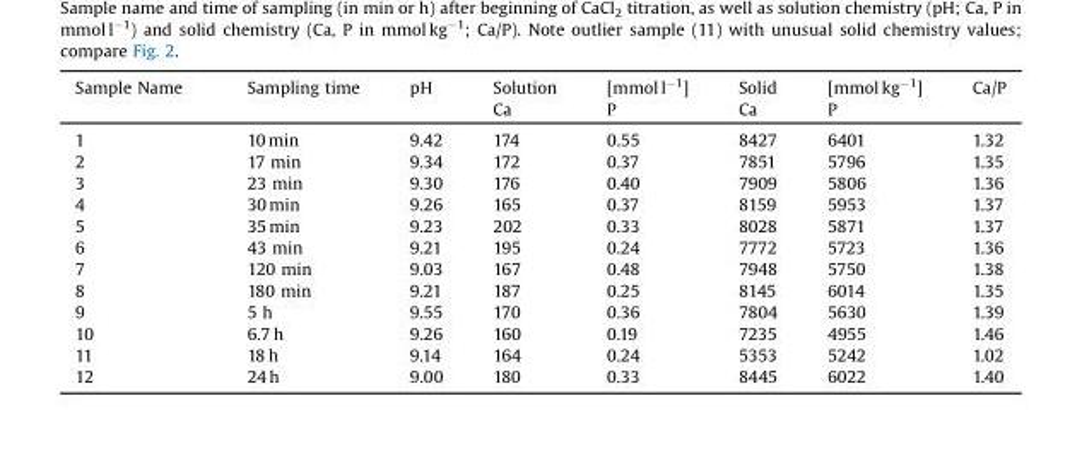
<table><thead><tr><td>Sample Name</td><td>Sampling time</td><td>pH</td><td>Solution Ca</td><td>[mmol l<sup>−1</sup>] P</td><td>Solid Ca</td><td>[mmol kg<sup>−1</sup>] P</td><td>Ca/P</td></tr></thead><tbody><tr><td>1</td><td>10 min</td><td>9.42</td><td>174</td><td>0.55</td><td>8427</td><td>6401</td><td>1.32</td></tr><tr><td>2</td><td>17 min</td><td>9.34</td><td>172</td><td>0.37</td><td>7851</td><td>5796</td><td>1.35</td></tr><tr><td>3</td><td>23 min</td><td>9.30</td><td>176</td><td>0.40</td><td>7909</td><td>5806</td><td>1.36</td></tr><tr><td>4</td><td>30 min</td><td>9.26</td><td>165</td><td>0.37</td><td>8159</td><td>5953</td><td>1.37</td></tr><tr><td>5</td><td>35 min</td><td>9.23</td><td>202</td><td>0.33</td><td>8028</td><td>5871</td><td>1.37</td></tr><tr><td>6</td><td>43 min</td><td>9.21</td><td>195</td><td>0.24</td><td>7772</td><td>5723</td><td>1.36</td></tr><tr><td>7</td><td>120 min</td><td>9.03</td><td>167</td><td>0.48</td><td>7948</td><td>5750</td><td>1.38</td></tr><tr><td>8</td><td>180 min</td><td>9.21</td><td>187</td><td>0.25</td><td>8145</td><td>6014</td><td>1.35</td></tr><tr><td>9</td><td>5 h</td><td>9.55</td><td>170</td><td>0.36</td><td>7804</td><td>5630</td><td>1.39</td></tr><tr><td>10</td><td>6.7 h</td><td>9.26</td><td>160</td><td>0.19</td><td>7235</td><td>4955</td><td>1.46</td></tr><tr><td>11</td><td>18 h</td><td>9.14</td><td>164</td><td>0.24</td><td>5353</td><td>5242</td><td>1.02</td></tr><tr><td>12</td><td>24 h</td><td>9.00</td><td>180</td><td>0.33</td><td>8445</td><td>6022</td><td>1.40</td></tr></tbody></table>